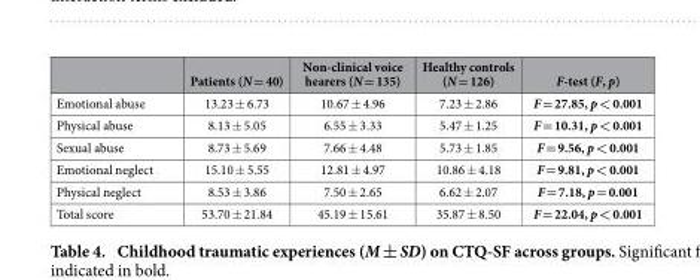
<table><thead><tr><td></td><td>Patients (N = 40)</td><td>Non-clinical voice hearers (N = 135)</td><td>Healthy controls (N = 126)</td><td>F-test (F, p)</td></tr></thead><tbody><tr><td>Emotional abuse</td><td>13.23 ± 6.73</td><td>10.67 ± 4.96</td><td>7.23 ± 2.86</td><td>F = 27.85, p &lt; 0.001</td></tr><tr><td>Physical abuse</td><td>8.13 ± 5.05</td><td>6.55 ± 3.33</td><td>5.47 ± 1.25</td><td>F = 10.31, p &lt; 0.001</td></tr><tr><td>Sexual abuse</td><td>8.73 ± 5.69</td><td>7.66 ± 4.48</td><td>5.73 ± 1.85</td><td>F = 9.56, p &lt; 0.001</td></tr><tr><td>Emotional neglect</td><td>15.10 ± 5.55</td><td>12.81 ± 4.97</td><td>10.86 ± 4.18</td><td>F = 9.81, p &lt; 0.001</td></tr><tr><td>Physical neglect</td><td>8.53 ± 3.86</td><td>7.50 ± 2.65</td><td>6.62 ± 2.07</td><td>F = 7.18, p = 0.001</td></tr><tr><td>Total score</td><td>53.70 ± 21.84</td><td>45.19 ± 15.61</td><td>35.87 ± 8.50</td><td>F = 22.04, p &lt; 0.001</td></tr></tbody></table>